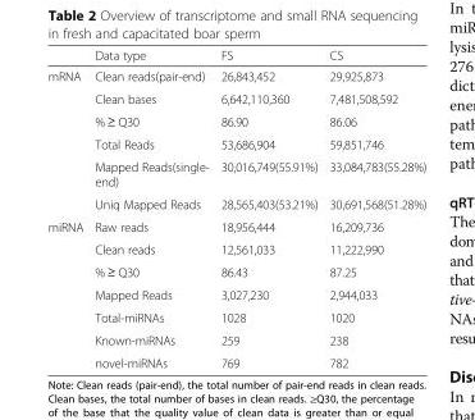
<table><thead><tr><td></td><td>Data type</td><td>FS</td><td>CS</td></tr></thead><tbody><tr><td rowspan="6">mRNA</td><td>Clean reads(pair-end)</td><td>26,843,452</td><td>29,925,873</td></tr><tr><td>Clean bases</td><td>6,642,110,360</td><td>7,481,508,592</td></tr><tr><td>% ≥ Q30</td><td>86.90</td><td>86.06</td></tr><tr><td>Total Reads</td><td>53,686,904</td><td>59,851,746</td></tr><tr><td>Mapped Reads(single- end)</td><td>30,016,749(55.91%)</td><td>33,084,783(55.28%)</td></tr><tr><td>Uniq Mapped Reads</td><td>28,565,403(53.21%)</td><td>30,691,568(51.28%)</td></tr><tr><td rowspan="7">miRNA</td><td>Raw reads</td><td>18,956,444</td><td>16,209,736</td></tr><tr><td>Clean reads</td><td>12,561,033</td><td>11,222,990</td></tr><tr><td>% ≥ Q30</td><td>86.43</td><td>87.25</td></tr><tr><td>Mapped Reads</td><td>3,027,230</td><td>2,944,033</td></tr><tr><td>Total-miRNAs</td><td>1028</td><td>1020</td></tr><tr><td>Known-miRNAs</td><td>259</td><td>238</td></tr><tr><td>novel-miRNAs</td><td>769</td><td>782</td></tr></tbody></table>